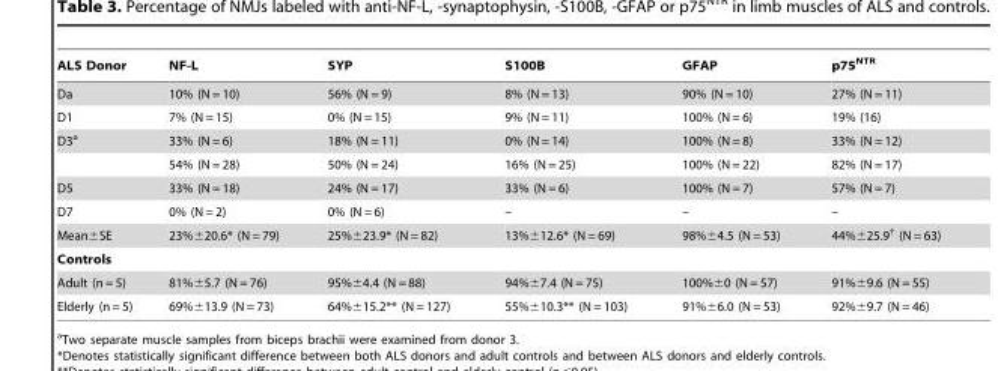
<table><thead><tr><td>ALS Donor</td><td>NF-L</td><td>SYP</td><td>S100B</td><td>GFAP</td><td>p75<sup>NTR</sup></td></tr></thead><tbody><tr><td>Da</td><td>10% (N = 10)</td><td>56% (N = 9)</td><td>8% (N = 13)</td><td>90% (N = 10)</td><td>27% (N = 11)</td></tr><tr><td>D1</td><td>7% (N = 15)</td><td>0% (N = 15)</td><td>9% (N = 11)</td><td>100% (N = 6)</td><td>19% (16)</td></tr><tr><td rowspan="2">D3<sup>a</sup></td><td>33% (N = 6)</td><td>18% (N = 11)</td><td>0% (N = 14)</td><td>100% (N = 8)</td><td>33% (N = 12)</td></tr><tr><td>54% (N = 28)</td><td>50% (N = 24)</td><td>16% (N = 25)</td><td>100% (N = 22)</td><td>82% (N = 17)</td></tr><tr><td>D5</td><td>33% (N = 18)</td><td>24% (N = 17)</td><td>33% (N = 6)</td><td>100% (N = 7)</td><td>57% (N = 7)</td></tr><tr><td>D7</td><td>0% (N = 2)</td><td>0% (N = 6)</td><td>–</td><td>–</td><td>–</td></tr><tr><td>Mean±SE</td><td>23%±20.6* (N = 79)</td><td>25%±23.9* (N = 82)</td><td>13%±12.6* (N = 69)</td><td>98%±4.5 (N = 53)</td><td>44%±25.9<sup>†</sup> (N = 63)</td></tr><tr><td colspan="6">Controls</td></tr><tr><td>Adult (n = 5)</td><td>81%±5.7 (N = 76)</td><td>95%±4.4 (N = 88)</td><td>94%±7.4 (N = 75)</td><td>100%±0 (N = 57)</td><td>91%±9.6 (N = 55)</td></tr><tr><td>Elderly (n = 5)</td><td>69%±13.9 (N = 73)</td><td>64%±15.2** (N = 127)</td><td>55%±10.3** (N = 103)</td><td>91%±6.0 (N = 53)</td><td>92%±9.7 (N = 46)</td></tr></tbody></table>